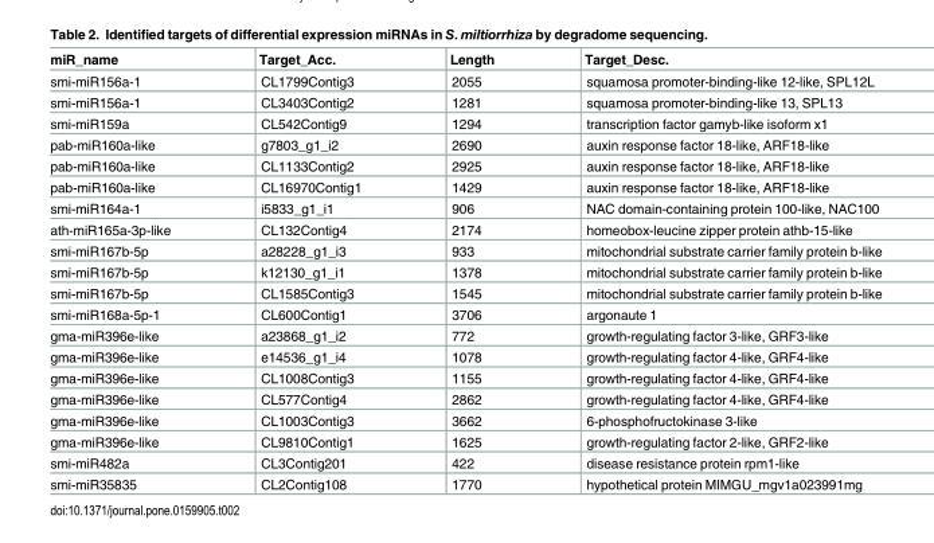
<table><thead><tr><td>miR_name</td><td>Target_Acc.</td><td>Length</td><td>Target_Desc.</td></tr></thead><tbody><tr><td>smi-miR156a-1</td><td>CL1799Contig3</td><td>2055</td><td>squamosa promoter-binding-like 12-like, SPL12L</td></tr><tr><td>smi-miR156a-1</td><td>CL3403Contig2</td><td>1281</td><td>squamosa promoter-binding-like 13, SPL13</td></tr><tr><td>smi-miR159a</td><td>CL542Contig9</td><td>1294</td><td>transcription factor gamyb-like isoform x1</td></tr><tr><td>pab-miR160a-like</td><td>g7803_g1_i2</td><td>2690</td><td>auxin response factor 18-like, ARF18-like</td></tr><tr><td>pab-miR160a-like</td><td>CL1133Contig2</td><td>2925</td><td>auxin response factor 18-like, ARF18-like</td></tr><tr><td>pab-miR160a-like</td><td>CL16970Contig1</td><td>1429</td><td>auxin response factor 18-like, ARF18-like</td></tr><tr><td>smi-miR164a-1</td><td>i5833_g1_i1</td><td>906</td><td>NAC domain-containing protein 100-like, NAC100</td></tr><tr><td>ath-miR165a-3p-like</td><td>CL132Contig4</td><td>2174</td><td>homeobox-leucine zipper protein athb-15-like</td></tr><tr><td>smi-miR167b-5p</td><td>a28228_g1_i3</td><td>933</td><td>mitochondrial substrate carrier family protein b-like</td></tr><tr><td>smi-miR167b-5p</td><td>k12130_g1_i1</td><td>1378</td><td>mitochondrial substrate carrier family protein b-like</td></tr><tr><td>smi-miR167b-5p</td><td>CL1585Contig3</td><td>1545</td><td>mitochondrial substrate carrier family protein b-like</td></tr><tr><td>smi-miR168a-5p-1</td><td>CL600Contig1</td><td>3706</td><td>argonaute 1</td></tr><tr><td>gma-miR396e-like</td><td>a23868_g1_i2</td><td>772</td><td>growth-regulating factor 3-like, GRF3-like</td></tr><tr><td>gma-miR396e-like</td><td>e14536_g1_i4</td><td>1078</td><td>growth-regulating factor 4-like, GRF4-like</td></tr><tr><td>gma-miR396e-like</td><td>CL1008Contig3</td><td>1155</td><td>growth-regulating factor 4-like, GRF4-like</td></tr><tr><td>gma-miR396e-like</td><td>CL577Contig4</td><td>2862</td><td>growth-regulating factor 4-like, GRF4-like</td></tr><tr><td>gma-miR396e-like</td><td>CL1003Contig3</td><td>3662</td><td>6-phosphofructokinase 3-like</td></tr><tr><td>gma-miR396e-like</td><td>CL9810Contig1</td><td>1625</td><td>growth-regulating factor 2-like, GRF2-like</td></tr><tr><td>smi-miR482a</td><td>CL3Contig201</td><td>422</td><td>disease resistance protein rpm1-like</td></tr><tr><td>smi-miR35835</td><td>CL2Contig108</td><td>1770</td><td>hypothetical protein MIMGU_mgv1a023991mg</td></tr></tbody></table>